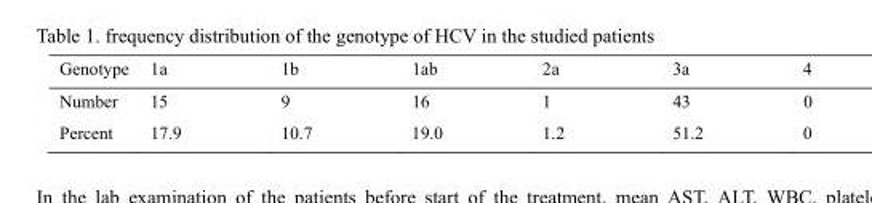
<table><thead><tr><td>Genotype</td><td>1a</td><td>1b</td><td>1ab</td><td>2a</td><td>3a</td><td>4</td></tr></thead><tbody><tr><td>Number</td><td>15</td><td>9</td><td>16</td><td>1</td><td>43</td><td>0</td></tr><tr><td>Percent</td><td>17.9</td><td>10.7</td><td>19.0</td><td>1.2</td><td>51.2</td><td>0</td></tr></tbody></table>